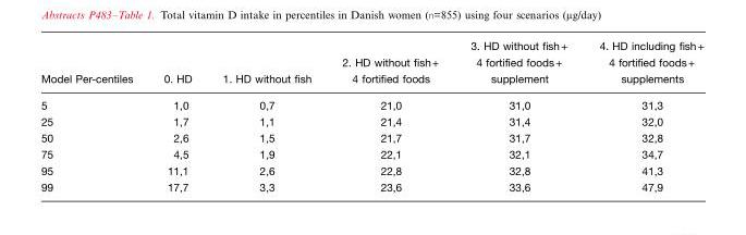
<table><thead><tr><td>Model Per-centiles</td><td>0. HD</td><td>1. HD without fish</td><td>2. HD without fish+ 4 fortified foods</td><td>3. HD without fish+ 4 fortified foods+ supplement</td><td>4. HD including fish+ 4 fortified foods+ supplements</td></tr></thead><tbody><tr><td>5</td><td>1,0</td><td>0,7</td><td>21,0</td><td>31,0</td><td>31,3</td></tr><tr><td>25</td><td>1,7</td><td>1,1</td><td>21,4</td><td>31,4</td><td>32,0</td></tr><tr><td>50</td><td>2,6</td><td>1,5</td><td>21,7</td><td>31,7</td><td>32,8</td></tr><tr><td>75</td><td>4,5</td><td>1,9</td><td>22,1</td><td>32,1</td><td>34,7</td></tr><tr><td>95</td><td>11,1</td><td>2,6</td><td>22,8</td><td>32,8</td><td>41,3</td></tr><tr><td>99</td><td>17,7</td><td>3,3</td><td>23,6</td><td>33,6</td><td>47,9</td></tr></tbody></table>